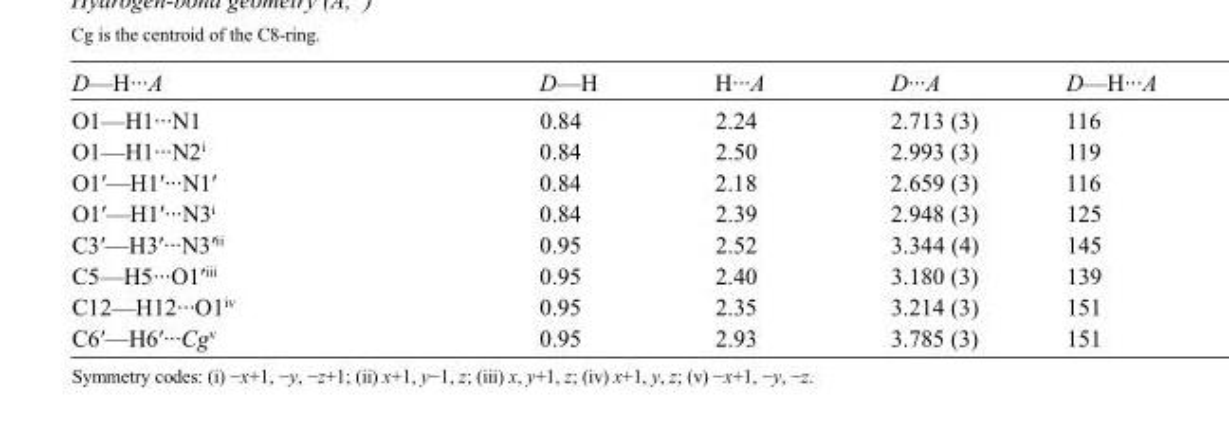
<table><tbody><tr><td>D—H···A</td><td>D—H</td><td>H···A</td><td>D···A</td><td>D—H···A</td></tr><tr><td>O1—H1···N1</td><td>0.84</td><td>2.24</td><td>2.713 (3)</td><td>116</td></tr><tr><td>O1—H1···N2<sup>i</sup></td><td>0.84</td><td>2.50</td><td>2.993 (3)</td><td>119</td></tr><tr><td>O1′—H1′···N1′</td><td>0.84</td><td>2.18</td><td>2.659 (3)</td><td>116</td></tr><tr><td>O1′—H1′···N3<sup>i</sup></td><td>0.84</td><td>2.39</td><td>2.948 (3)</td><td>125</td></tr><tr><td>C3′—H3′···N3′<sup>ii</sup></td><td>0.95</td><td>2.52</td><td>3.344 (4)</td><td>145</td></tr><tr><td>C5—H5···O1′<sup>iii</sup></td><td>0.95</td><td>2.40</td><td>3.180 (3)</td><td>139</td></tr><tr><td>C12—H12···O1<sup>iv</sup></td><td>0.95</td><td>2.35</td><td>3.214 (3)</td><td>151</td></tr><tr><td>C6′—H6′···Cg<sup>v</sup></td><td>0.95</td><td>2.93</td><td>3.785 (3)</td><td>151</td></tr></tbody></table>